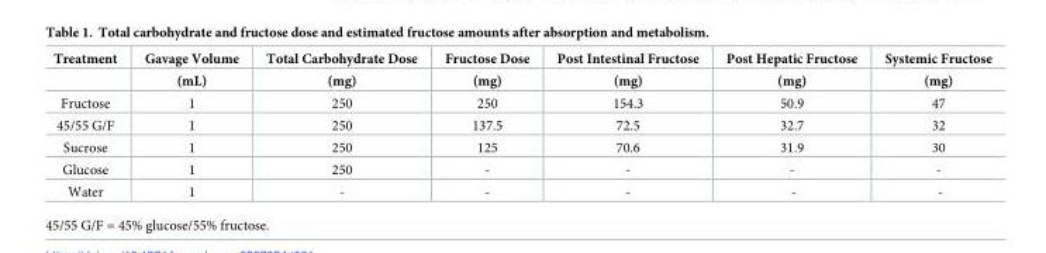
<table><thead><tr><td rowspan="2">Treatment</td><td rowspan="2">Gavage Volume (mL)</td><td rowspan="2">Total Carbohydrate Dose (mg)</td><td rowspan="2">Fructose Dose (mg)</td><td rowspan="2">Post Intestinal Fructose (mg)</td><td rowspan="2">Post Hepatic Fructose (mg)</td><td rowspan="2">Systemic Fructose (mg)</td></tr><tr></tr></thead><tbody><tr><td>Fructose</td><td>1</td><td>250</td><td>250</td><td>154.3</td><td>50.9</td><td>47</td></tr><tr><td>45/55 G/F</td><td>1</td><td>250</td><td>137.5</td><td>72.5</td><td>32.7</td><td>32</td></tr><tr><td>Sucrose</td><td>1</td><td>250</td><td>125</td><td>70.6</td><td>31.9</td><td>30</td></tr><tr><td>Glucose</td><td>1</td><td>250</td><td>-</td><td>-</td><td>-</td><td>-</td></tr><tr><td>Water</td><td>1</td><td>-</td><td>-</td><td>-</td><td>-</td><td>-</td></tr></tbody></table>